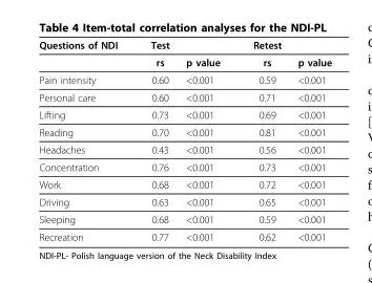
<table><thead><tr><td>Questions of NDI</td><td>Test</td><td></td><td>Retest</td><td></td></tr></thead><tbody><tr><td></td><td>rs</td><td>p value</td><td>rs</td><td>p value</td></tr><tr><td>Pain intensity</td><td>0.60</td><td>&lt;0.001</td><td>0.59</td><td>&lt;0.001</td></tr><tr><td>Personal care</td><td>0.60</td><td>&lt;0.001</td><td>0.71</td><td>&lt;0.001</td></tr><tr><td>Lifting</td><td>0.73</td><td>&lt;0.001</td><td>0.69</td><td>&lt;0.001</td></tr><tr><td>Reading</td><td>0.70</td><td>&lt;0.001</td><td>0.81</td><td>&lt;0.001</td></tr><tr><td>Headaches</td><td>0.43</td><td>&lt;0.001</td><td>0.56</td><td>&lt;0.001</td></tr><tr><td>Concentration</td><td>0.76</td><td>&lt;0.001</td><td>0.73</td><td>&lt;0.001</td></tr><tr><td>Work</td><td>0.68</td><td>&lt;0.001</td><td>0.72</td><td>&lt;0.001</td></tr><tr><td>Driving</td><td>0.63</td><td>&lt;0.001</td><td>0.65</td><td>&lt;0.001</td></tr><tr><td>Sleeping</td><td>0.68</td><td>&lt;0.001</td><td>0.59</td><td>&lt;0.001</td></tr><tr><td>Recreation</td><td>0.77</td><td>&lt;0.001</td><td>0.62</td><td>&lt;0.001</td></tr></tbody></table>